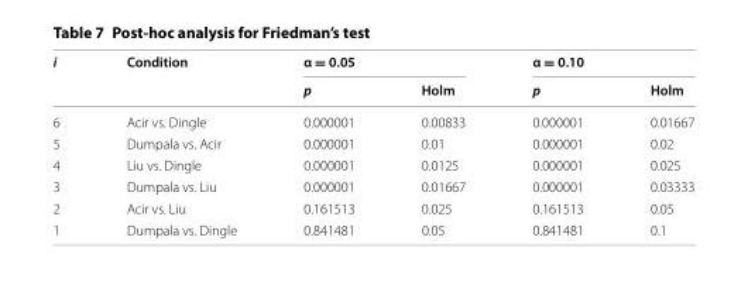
<table><thead><tr><td rowspan="2">i</td><td rowspan="2">Condition</td><td colspan="2">α = 0.05</td><td colspan="2">α = 0.10</td></tr><tr><td>p</td><td>Holm</td><td>p</td><td>Holm</td></tr></thead><tbody><tr><td>6</td><td>Acir vs. Dingle</td><td>0.000001</td><td>0.00833</td><td>0.000001</td><td>0.01667</td></tr><tr><td>5</td><td>Dumpala vs. Acir</td><td>0.000001</td><td>0.01</td><td>0.000001</td><td>0.02</td></tr><tr><td>4</td><td>Liu vs. Dingle</td><td>0.000001</td><td>0.0125</td><td>0.000001</td><td>0.025</td></tr><tr><td>3</td><td>Dumpala vs. Liu</td><td>0.000001</td><td>0.01667</td><td>0.000001</td><td>0.03333</td></tr><tr><td>2</td><td>Acir vs. Liu</td><td>0.161513</td><td>0.025</td><td>0.161513</td><td>0.05</td></tr><tr><td>1</td><td>Dumpala vs. Dingle</td><td>0.841481</td><td>0.05</td><td>0.841481</td><td>0.1</td></tr></tbody></table>